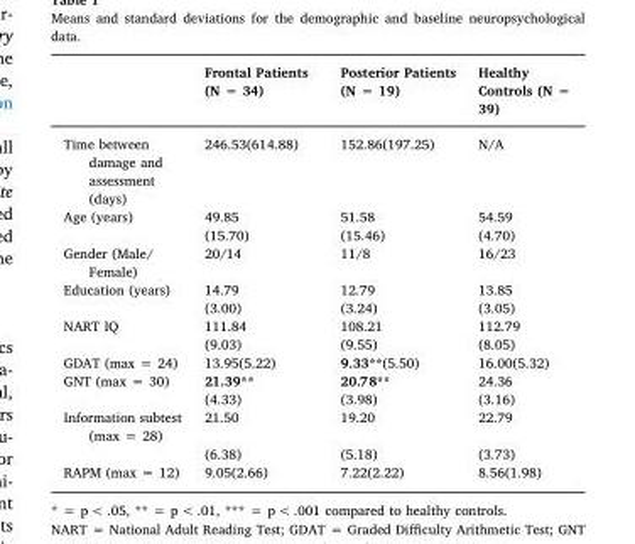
<table><thead><tr><td></td><td>Frontal Patients (N = 34)</td><td>Posterior Patients (N = 19)</td><td>Healthy Controls (N = 39)</td></tr></thead><tbody><tr><td>Time between damage and assessment (days)</td><td>246.53(614.88)</td><td>152.86(197.25)</td><td>N/A</td></tr><tr><td rowspan="2">Age (years)</td><td>49.85</td><td>51.58</td><td>54.59</td></tr><tr><td>(15.70)</td><td>(15.46)</td><td>(4.70)</td></tr><tr><td>Gender (Male/ Female)</td><td>20/14</td><td>11/8</td><td>16/23</td></tr><tr><td rowspan="2">Education (years)</td><td>14.79</td><td>12.79</td><td>13.85</td></tr><tr><td>(3.00)</td><td>(3.24)</td><td>(3.05)</td></tr><tr><td rowspan="2">NART IQ</td><td>111.84</td><td>108.21</td><td>112.79</td></tr><tr><td>(9.03)</td><td>(9.55)</td><td>(8.05)</td></tr><tr><td>GDAT (max = 24)</td><td>13.95(5.22)</td><td>9.33**(5.50)</td><td>16.00(5.32)</td></tr><tr><td rowspan="2">GNT (max = 30)</td><td>21.39**</td><td>20.78**</td><td>24.36</td></tr><tr><td>(4.33)</td><td>(3.98)</td><td>(3.16)</td></tr><tr><td rowspan="2">Information subtest (max = 28)</td><td>21.50</td><td>19.20</td><td>22.79</td></tr><tr><td>(6.38)</td><td>(5.18)</td><td>(3.73)</td></tr><tr><td>RAPM (max = 12)</td><td>9.05(2.66)</td><td>7.22(2.22)</td><td>8.56(1.98)</td></tr></tbody></table>